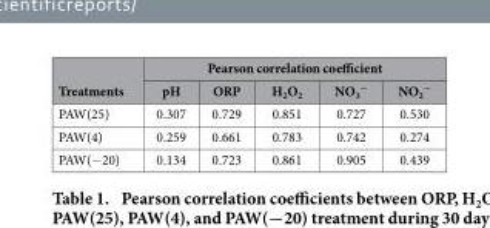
<table><thead><tr><td rowspan="2">Treatments</td><td colspan="5">Pearson correlation coefficient</td></tr><tr><td>pH</td><td>ORP</td><td>H<sub>2</sub>O<sub>2</sub></td><td>NO<sub>3</sub> <sup>−</sup></td><td>NO<sub>2</sub> <sup>−</sup></td></tr></thead><tbody><tr><td>PAW(25)</td><td>0.307</td><td>0.729</td><td>0.851</td><td>0.727</td><td>0.530</td></tr><tr><td>PAW(4)</td><td>0.259</td><td>0.661</td><td>0.783</td><td>0.742</td><td>0.274</td></tr><tr><td>PAW(−20)</td><td>0.134</td><td>0.723</td><td>0.861</td><td>0.905</td><td>0.439</td></tr></tbody></table>